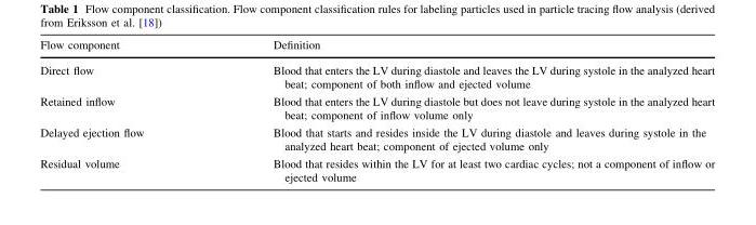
<table><thead><tr><td>Flow component</td><td>Definition</td></tr></thead><tbody><tr><td>Direct flow</td><td>Blood that enters the LV during diastole and leaves the LV during systole in the analyzed heart beat; component of both inflow and ejected volume</td></tr><tr><td>Retained inflow</td><td>Blood that enters the LV during diastole but does not leave during systole in the analyzed heart beat; component of inflow volume only</td></tr><tr><td>Delayed ejection flow</td><td>Blood that starts and resides inside the LV during diastole and leaves during systole in the analyzed heart beat; component of ejected volume only</td></tr><tr><td>Residual volume</td><td>Blood that resides within the LV for at least two cardiac cycles; not a component of inflow or ejected volume</td></tr></tbody></table>